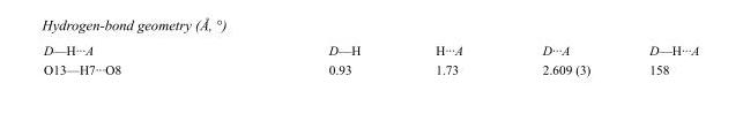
<table><tbody><tr><td>D—H···A</td><td>D—H</td><td>H···A</td><td>D···A</td><td>D—H···A</td></tr><tr><td>O13—H7···O8</td><td>0.93</td><td>1.73</td><td>2.609 (3)</td><td>158</td></tr></tbody></table>